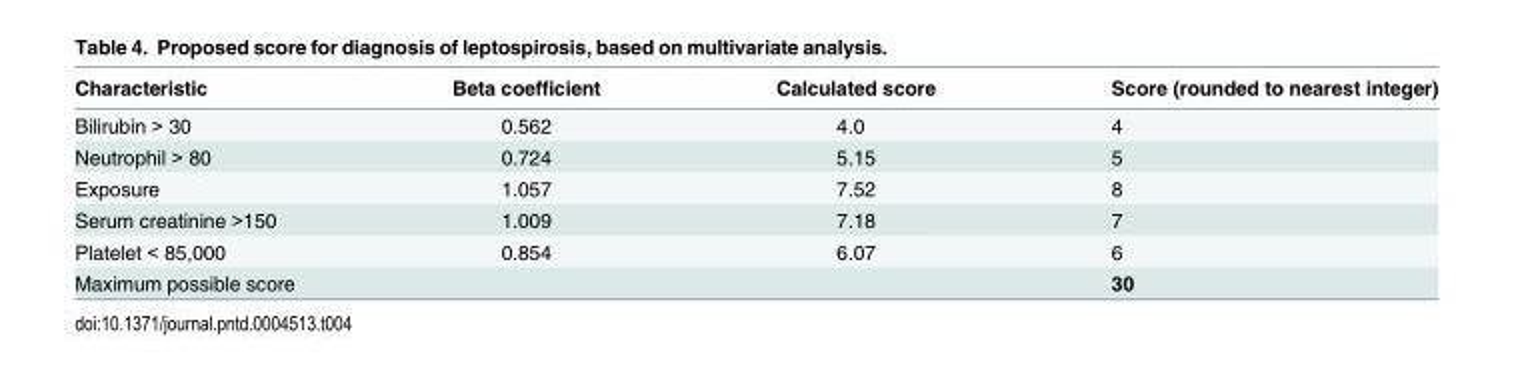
<table><thead><tr><td>Characteristic</td><td>Beta coefficient</td><td>Calculated score</td><td>Score (rounded to nearest integer)</td></tr></thead><tbody><tr><td>Bilirubin &gt; 30</td><td>0.562</td><td>4.0</td><td>4</td></tr><tr><td>Neutrophil &gt; 80</td><td>0.724</td><td>5.15</td><td>5</td></tr><tr><td>Exposure</td><td>1.057</td><td>7.52</td><td>8</td></tr><tr><td>Serum creatinine &gt;150</td><td>1.009</td><td>7.18</td><td>7</td></tr><tr><td>Platelet &lt; 85,000</td><td>0.854</td><td>6.07</td><td>6</td></tr><tr><td colspan="3">Maximum possible score</td><td>30</td></tr></tbody></table>